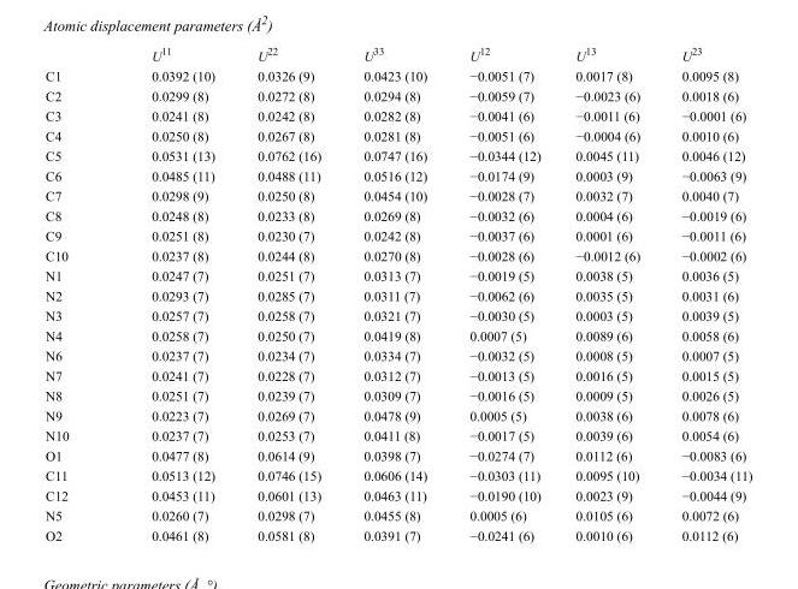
<table><thead><tr><td></td><td>U<sup>11</sup></td><td>U<sup>22</sup></td><td>U<sup>33</sup></td><td>U<sup>12</sup></td><td>U<sup>13</sup></td><td>U<sup>23</sup></td></tr></thead><tbody><tr><td>C1</td><td>0.0392 (10)</td><td>0.0326 (9)</td><td>0.0423 (10)</td><td>−0.0051 (7)</td><td>0.0017 (8)</td><td>0.0095 (8)</td></tr><tr><td>C2</td><td>0.0299 (8)</td><td>0.0272 (8)</td><td>0.0294 (8)</td><td>−0.0059 (7)</td><td>−0.0023 (6)</td><td>0.0018 (6)</td></tr><tr><td>C3</td><td>0.0241 (8)</td><td>0.0242 (8)</td><td>0.0282 (8)</td><td>−0.0041 (6)</td><td>−0.0011 (6)</td><td>−0.0001 (6)</td></tr><tr><td>C4</td><td>0.0250 (8)</td><td>0.0267 (8)</td><td>0.0281 (8)</td><td>−0.0051 (6)</td><td>−0.0004 (6)</td><td>0.0010 (6)</td></tr><tr><td>C5</td><td>0.0531 (13)</td><td>0.0762 (16)</td><td>0.0747 (16)</td><td>−0.0344 (12)</td><td>0.0045 (11)</td><td>0.0046 (12)</td></tr><tr><td>C6</td><td>0.0485 (11)</td><td>0.0488 (11)</td><td>0.0516 (12)</td><td>−0.0174 (9)</td><td>0.0003 (9)</td><td>−0.0063 (9)</td></tr><tr><td>C7</td><td>0.0298 (9)</td><td>0.0250 (8)</td><td>0.0454 (10)</td><td>−0.0028 (7)</td><td>0.0032 (7)</td><td>0.0040 (7)</td></tr><tr><td>C8</td><td>0.0248 (8)</td><td>0.0233 (8)</td><td>0.0269 (8)</td><td>−0.0032 (6)</td><td>0.0004 (6)</td><td>−0.0019 (6)</td></tr><tr><td>C9</td><td>0.0251 (8)</td><td>0.0230 (7)</td><td>0.0242 (8)</td><td>−0.0037 (6)</td><td>0.0001 (6)</td><td>−0.0011 (6)</td></tr><tr><td>C10</td><td>0.0237 (8)</td><td>0.0244 (8)</td><td>0.0270 (8)</td><td>−0.0028 (6)</td><td>−0.0012 (6)</td><td>−0.0002 (6)</td></tr><tr><td>N1</td><td>0.0247 (7)</td><td>0.0251 (7)</td><td>0.0313 (7)</td><td>−0.0019 (5)</td><td>0.0038 (5)</td><td>0.0036 (5)</td></tr><tr><td>N2</td><td>0.0293 (7)</td><td>0.0285 (7)</td><td>0.0311 (7)</td><td>−0.0062 (6)</td><td>0.0035 (5)</td><td>0.0031 (6)</td></tr><tr><td>N3</td><td>0.0257 (7)</td><td>0.0258 (7)</td><td>0.0321 (7)</td><td>−0.0030 (5)</td><td>0.0003 (5)</td><td>0.0039 (5)</td></tr><tr><td>N4</td><td>0.0258 (7)</td><td>0.0250 (7)</td><td>0.0419 (8)</td><td>0.0007 (5)</td><td>0.0089 (6)</td><td>0.0058 (6)</td></tr><tr><td>N6</td><td>0.0237 (7)</td><td>0.0234 (7)</td><td>0.0334 (7)</td><td>−0.0032 (5)</td><td>0.0008 (5)</td><td>0.0007 (5)</td></tr><tr><td>N7</td><td>0.0241 (7)</td><td>0.0228 (7)</td><td>0.0312 (7)</td><td>−0.0013 (5)</td><td>0.0016 (5)</td><td>0.0015 (5)</td></tr><tr><td>N8</td><td>0.0251 (7)</td><td>0.0239 (7)</td><td>0.0309 (7)</td><td>−0.0016 (5)</td><td>0.0009 (5)</td><td>0.0026 (5)</td></tr><tr><td>N9</td><td>0.0223 (7)</td><td>0.0269 (7)</td><td>0.0478 (9)</td><td>0.0005 (5)</td><td>0.0038 (6)</td><td>0.0078 (6)</td></tr><tr><td>N10</td><td>0.0237 (7)</td><td>0.0253 (7)</td><td>0.0411 (8)</td><td>−0.0017 (5)</td><td>0.0039 (6)</td><td>0.0054 (6)</td></tr><tr><td>O1</td><td>0.0477 (8)</td><td>0.0614 (9)</td><td>0.0398 (7)</td><td>−0.0274 (7)</td><td>0.0112 (6)</td><td>−0.0083 (6)</td></tr><tr><td>C11</td><td>0.0513 (12)</td><td>0.0746 (15)</td><td>0.0606 (14)</td><td>−0.0303 (11)</td><td>0.0095 (10)</td><td>−0.0034 (11)</td></tr><tr><td>C12</td><td>0.0453 (11)</td><td>0.0601 (13)</td><td>0.0463 (11)</td><td>−0.0190 (10)</td><td>0.0023 (9)</td><td>−0.0044 (9)</td></tr><tr><td>N5</td><td>0.0260 (7)</td><td>0.0298 (7)</td><td>0.0455 (8)</td><td>0.0005 (6)</td><td>0.0105 (6)</td><td>0.0072 (6)</td></tr><tr><td>O2</td><td>0.0461 (8)</td><td>0.0581 (8)</td><td>0.0391 (7)</td><td>−0.0241 (6)</td><td>0.0010 (6)</td><td>0.0112 (6)</td></tr></tbody></table>